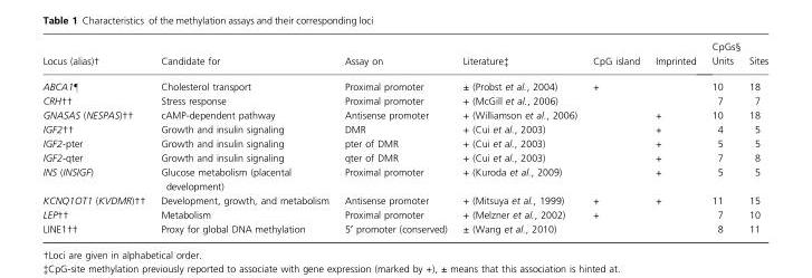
<table><thead><tr><td>Locus (alias)†</td><td>Candidate for</td><td>Assay on</td><td>Literature‡</td><td>CpG island</td><td>Imprinted</td><td>CpGs§ Units</td><td>Sites</td></tr></thead><tbody><tr><td>ABCA1–</td><td>Cholesterol transport</td><td>Proximal promoter</td><td>± (Probst et al., 2004)</td><td>+</td><td></td><td>10</td><td>18</td></tr><tr><td>CRH††</td><td>Stress response</td><td>Proximal promoter</td><td>+ (McGill et al., 2006)</td><td></td><td></td><td>7</td><td>7</td></tr><tr><td>GNASAS (NESPAS)††</td><td>cAMP-dependent pathway</td><td>Antisense promoter</td><td>+ (Williamson et al., 2006)</td><td></td><td>+</td><td>10</td><td>18</td></tr><tr><td>IGF2††</td><td>Growth and insulin signaling</td><td>DMR</td><td>+ (Cui et al., 2003)</td><td></td><td>+</td><td>4</td><td>5</td></tr><tr><td>IGF2-pter</td><td>Growth and insulin signaling</td><td>pter of DMR</td><td>+ (Cui et al., 2003)</td><td></td><td>+</td><td>5</td><td>5</td></tr><tr><td>IGF2-qter</td><td>Growth and insulin signaling</td><td>qter of DMR</td><td>+ (Cui et al., 2003)</td><td></td><td>+</td><td>7</td><td>8</td></tr><tr><td>INS (INSIGF)</td><td>Glucose metabolism (placental development)</td><td>Proximal promoter</td><td>+ (Kuroda et al., 2009)</td><td></td><td>+</td><td>5</td><td>5</td></tr><tr><td>KCNQ1OT1 (KVDMR)††</td><td>Development, growth, and metabolism</td><td>Antisense promoter</td><td>+ (Mitsuya et al., 1999)</td><td>+</td><td>+</td><td>11</td><td>15</td></tr><tr><td>LEP††</td><td>Metabolism</td><td>Proximal promoter</td><td>+ (Melzner et al., 2002)</td><td>+</td><td></td><td>7</td><td>10</td></tr><tr><td>LINE1††</td><td>Proxy for global DNA methylation</td><td>5¢ promoter (conserved)</td><td>± (Wang et al., 2010)</td><td></td><td></td><td>8</td><td>11</td></tr></tbody></table>